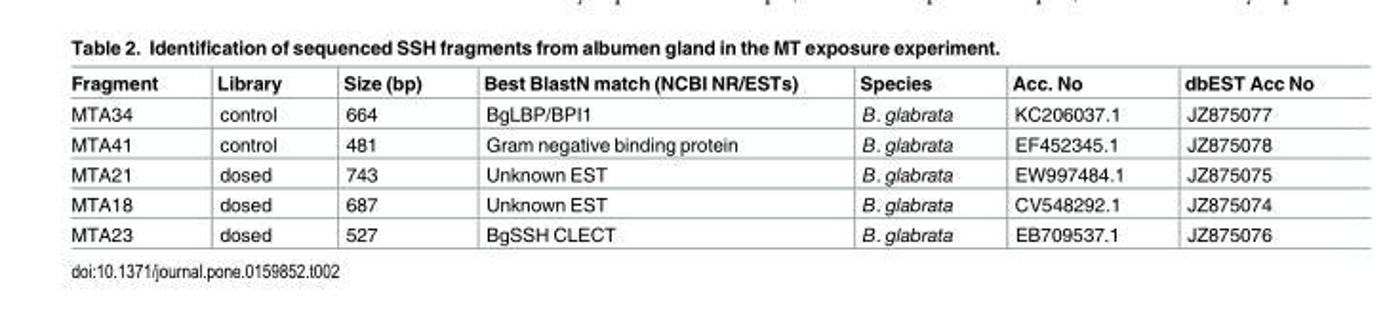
<table><thead><tr><td>Fragment</td><td>Library</td><td>Size (bp)</td><td>Best BlastN match (NCBI NR/ESTs)</td><td>Species</td><td>Acc. No</td><td>dbEST Acc No</td></tr></thead><tbody><tr><td>MTA34</td><td>control</td><td>664</td><td>BgLBP/BPI1</td><td>B. glabrata</td><td>KC206037.1</td><td>JZ875077</td></tr><tr><td>MTA41</td><td>control</td><td>481</td><td>Gram negative binding protein</td><td>B. glabrata</td><td>EF452345.1</td><td>JZ875078</td></tr><tr><td>MTA21</td><td>dosed</td><td>743</td><td>Unknown EST</td><td>B. glabrata</td><td>EW997484.1</td><td>JZ875075</td></tr><tr><td>MTA18</td><td>dosed</td><td>687</td><td>Unknown EST</td><td>B. glabrata</td><td>CV548292.1</td><td>JZ875074</td></tr><tr><td>MTA23</td><td>dosed</td><td>527</td><td>BgSSH CLECT</td><td>B. glabrata</td><td>EB709537.1</td><td>JZ875076</td></tr></tbody></table>